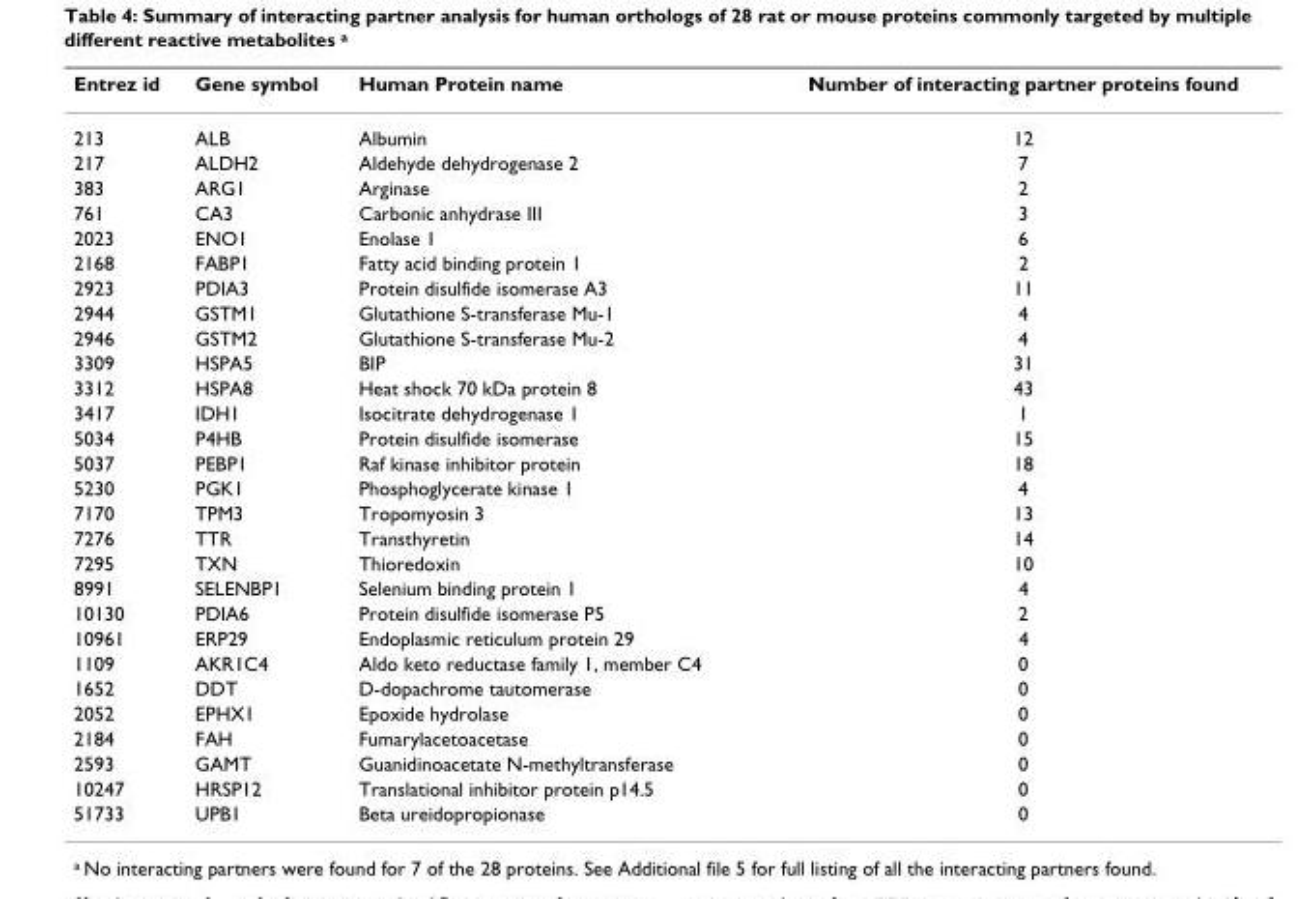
<table><thead><tr><td>Entrez id</td><td>Gene symbol</td><td>Human Protein name</td><td>Number of interacting partner proteins found</td></tr></thead><tbody><tr><td>213</td><td>ALB</td><td>Albumin</td><td>12</td></tr><tr><td>217</td><td>ALDH2</td><td>Aldehyde dehydrogenase 2</td><td>7</td></tr><tr><td>383</td><td>ARG1</td><td>Arginase</td><td>2</td></tr><tr><td>761</td><td>CA3</td><td>Carbonic anhydrase III</td><td>3</td></tr><tr><td>2023</td><td>ENO1</td><td>Enolase 1</td><td>6</td></tr><tr><td>2168</td><td>FABP1</td><td>Fatty acid binding protein 1</td><td>2</td></tr><tr><td>2923</td><td>PDIA3</td><td>Protein disulfide isomerase A3</td><td>11</td></tr><tr><td>2944</td><td>GSTM1</td><td>Glutathione S-transferase Mu-1</td><td>4</td></tr><tr><td>2946</td><td>GSTM2</td><td>Glutathione S-transferase Mu-2</td><td>4</td></tr><tr><td>3309</td><td>HSPA5</td><td>BIP</td><td>31</td></tr><tr><td>3312</td><td>HSPA8</td><td>Heat shock 70 kDa protein 8</td><td>43</td></tr><tr><td>3417</td><td>IDH1</td><td>Isocitrate dehydrogenase 1</td><td>1</td></tr><tr><td>5034</td><td>P4HB</td><td>Protein disulfide isomerase</td><td>15</td></tr><tr><td>5037</td><td>PEBP1</td><td>Raf kinase inhibitor protein</td><td>18</td></tr><tr><td>5230</td><td>PGK1</td><td>Phosphoglycerate kinase 1</td><td>4</td></tr><tr><td>7170</td><td>TPM3</td><td>Tropomyosin 3</td><td>13</td></tr><tr><td>7276</td><td>TTR</td><td>Transthyretin</td><td>14</td></tr><tr><td>7295</td><td>TXN</td><td>Thioredoxin</td><td>10</td></tr><tr><td>8991</td><td>SELENBP1</td><td>Selenium binding protein 1</td><td>4</td></tr><tr><td>10130</td><td>PDIA6</td><td>Protein disulfide isomerase P5</td><td>2</td></tr><tr><td>10961</td><td>ERP29</td><td>Endoplasmic reticulum protein 29</td><td>4</td></tr><tr><td>1109</td><td>AKR1C4</td><td>Aldo keto reductase family 1, member C4</td><td>0</td></tr><tr><td>1652</td><td>DDT</td><td>D-dopachrome tautomerase</td><td>0</td></tr><tr><td>2052</td><td>EPHX1</td><td>Epoxide hydrolase</td><td>0</td></tr><tr><td>2184</td><td>FAH</td><td>Fumarylacetoacetase</td><td>0</td></tr><tr><td>2593</td><td>GAMT</td><td>Guanidinoacetate N-methyltransferase</td><td>0</td></tr><tr><td>10247</td><td>HRSP12</td><td>Translational inhibitor protein p14.5</td><td>0</td></tr><tr><td>51733</td><td>UPB1</td><td>Beta ureidopropionase</td><td>0</td></tr></tbody></table>